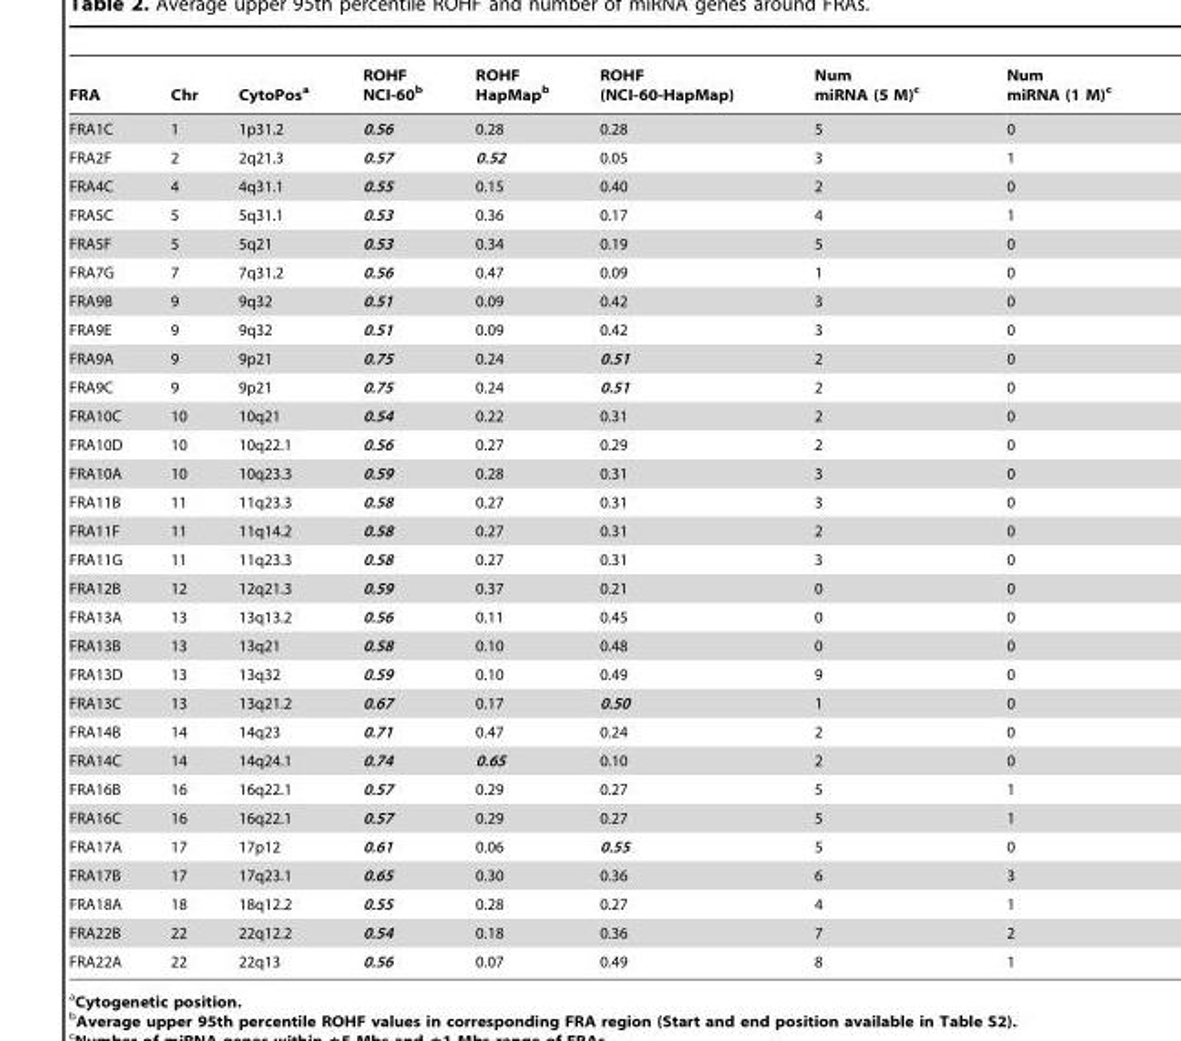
<table><thead><tr><td>FRA</td><td>Chr</td><td>CytoPos<sup>a</sup></td><td>ROHF NCI-60<sup>b</sup></td><td>ROHF HapMap<sup>b</sup></td><td>ROHF (NCI-60-HapMap)</td><td>Num miRNA (5 M)<sup>c</sup></td><td>Num miRNA (1 M)<sup>c</sup></td></tr></thead><tbody><tr><td>FRA1C</td><td>1</td><td>1p31.2</td><td>0.56</td><td>0.28</td><td>0.28</td><td>5</td><td>0</td></tr><tr><td>FRA2F</td><td>2</td><td>2q21.3</td><td>0.57</td><td>0.52</td><td>0.05</td><td>3</td><td>1</td></tr><tr><td>FRA4C</td><td>4</td><td>4q31.1</td><td>0.55</td><td>0.15</td><td>0.40</td><td>2</td><td>0</td></tr><tr><td>FRA5C</td><td>5</td><td>5q31.1</td><td>0.53</td><td>0.36</td><td>0.17</td><td>4</td><td>1</td></tr><tr><td>FRA5F</td><td>5</td><td>5q21</td><td>0.53</td><td>0.34</td><td>0.19</td><td>5</td><td>0</td></tr><tr><td>FRA7G</td><td>7</td><td>7q31.2</td><td>0.56</td><td>0.47</td><td>0.09</td><td>1</td><td>0</td></tr><tr><td>FRA9B</td><td>9</td><td>9q32</td><td>0.51</td><td>0.09</td><td>0.42</td><td>3</td><td>0</td></tr><tr><td>FRA9E</td><td>9</td><td>9q32</td><td>0.51</td><td>0.09</td><td>0.42</td><td>3</td><td>0</td></tr><tr><td>FRA9A</td><td>9</td><td>9p21</td><td>0.75</td><td>0.24</td><td>0.51</td><td>2</td><td>0</td></tr><tr><td>FRA9C</td><td>9</td><td>9p21</td><td>0.75</td><td>0.24</td><td>0.51</td><td>2</td><td>0</td></tr><tr><td>FRA10C</td><td>10</td><td>10q21</td><td>0.54</td><td>0.22</td><td>0.31</td><td>2</td><td>0</td></tr><tr><td>FRA10D</td><td>10</td><td>10q22.1</td><td>0.56</td><td>0.27</td><td>0.29</td><td>2</td><td>0</td></tr><tr><td>FRA10A</td><td>10</td><td>10q23.3</td><td>0.59</td><td>0.28</td><td>0.31</td><td>3</td><td>0</td></tr><tr><td>FRA11B</td><td>11</td><td>11q23.3</td><td>0.58</td><td>0.27</td><td>0.31</td><td>3</td><td>0</td></tr><tr><td>FRA11F</td><td>11</td><td>11q14.2</td><td>0.58</td><td>0.27</td><td>0.31</td><td>2</td><td>0</td></tr><tr><td>FRA11G</td><td>11</td><td>11q23.3</td><td>0.58</td><td>0.27</td><td>0.31</td><td>3</td><td>0</td></tr><tr><td>FRA12B</td><td>12</td><td>12q21.3</td><td>0.59</td><td>0.37</td><td>0.21</td><td>0</td><td>0</td></tr><tr><td>FRA13A</td><td>13</td><td>13q13.2</td><td>0.56</td><td>0.11</td><td>0.45</td><td>0</td><td>0</td></tr><tr><td>FRA13B</td><td>13</td><td>13q21</td><td>0.58</td><td>0.10</td><td>0.48</td><td>0</td><td>0</td></tr><tr><td>FRA13D</td><td>13</td><td>13q32</td><td>0.59</td><td>0.10</td><td>0.49</td><td>9</td><td>0</td></tr><tr><td>FRA13C</td><td>13</td><td>13q21.2</td><td>0.67</td><td>0.17</td><td>0.50</td><td>1</td><td>0</td></tr><tr><td>FRA14B</td><td>14</td><td>14q23</td><td>0.71</td><td>0.47</td><td>0.24</td><td>2</td><td>0</td></tr><tr><td>FRA14C</td><td>14</td><td>14q24.1</td><td>0.74</td><td>0.65</td><td>0.10</td><td>2</td><td>0</td></tr><tr><td>FRA16B</td><td>16</td><td>16q22.1</td><td>0.57</td><td>0.29</td><td>0.27</td><td>5</td><td>1</td></tr><tr><td>FRA16C</td><td>16</td><td>16q22.1</td><td>0.57</td><td>0.29</td><td>0.27</td><td>5</td><td>1</td></tr><tr><td>FRA17A</td><td>17</td><td>17p12</td><td>0.61</td><td>0.06</td><td>0.55</td><td>5</td><td>0</td></tr><tr><td>FRA17B</td><td>17</td><td>17q23.1</td><td>0.65</td><td>0.30</td><td>0.36</td><td>6</td><td>3</td></tr><tr><td>FRA18A</td><td>18</td><td>18q12.2</td><td>0.55</td><td>0.28</td><td>0.27</td><td>4</td><td>1</td></tr><tr><td>FRA22B</td><td>22</td><td>22q12.2</td><td>0.54</td><td>0.18</td><td>0.36</td><td>7</td><td>2</td></tr><tr><td>FRA22A</td><td>22</td><td>22q13</td><td>0.56</td><td>0.07</td><td>0.49</td><td>8</td><td>1</td></tr></tbody></table>